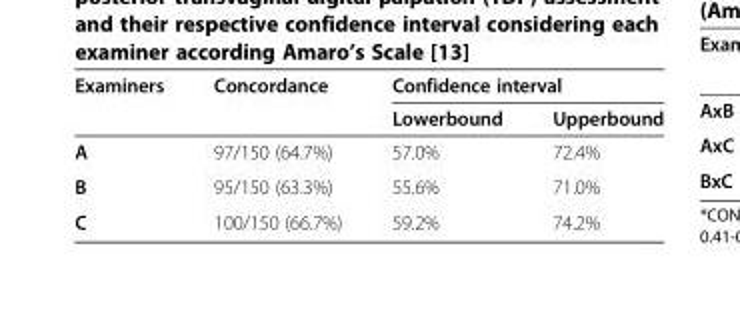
<table><thead><tr><td rowspan="2">Examiners</td><td rowspan="2">Concordance</td><td colspan="2">Confidence interval</td></tr><tr><td>Lowerbound</td><td>Upperbound</td></tr></thead><tbody><tr><td>A</td><td>97/150 (64.7%)</td><td>57.0%</td><td>72.4%</td></tr><tr><td>B</td><td>95/150 (63.3%)</td><td>55.6%</td><td>71.0%</td></tr><tr><td>C</td><td>100/150 (66.7%)</td><td>59.2%</td><td>74.2%</td></tr></tbody></table>